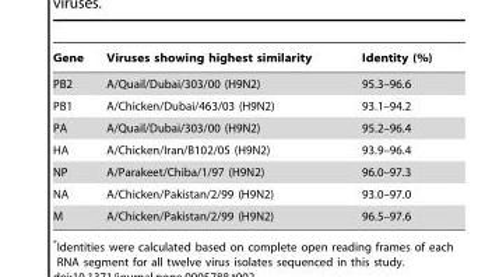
<table><thead><tr><td>Gene</td><td>Viruses showing highest similarity</td><td>Identity (%)</td></tr></thead><tbody><tr><td>PB2</td><td>A/Quail/Dubai/303/00 (H9N2)</td><td>95.3–96.6</td></tr><tr><td>PB1</td><td>A/Chicken/Dubai/463/03 (H9N2)</td><td>93.1–94.2</td></tr><tr><td>PA</td><td>A/Quail/Dubai/303/00 (H9N2)</td><td>95.2–96.4</td></tr><tr><td>HA</td><td>A/Chicken/Iran/B102/05 (H9N2)</td><td>93.9–96.4</td></tr><tr><td>NP</td><td>A/Parakeet/Chiba/1/97 (H9N2)</td><td>96.0–97.3</td></tr><tr><td>NA</td><td>A/Chicken/Pakistan/2/99 (H9N2)</td><td>93.0–97.0</td></tr><tr><td>M</td><td>A/Chicken/Pakistan/2/99 (H9N2)</td><td>96.5–97.6</td></tr></tbody></table>